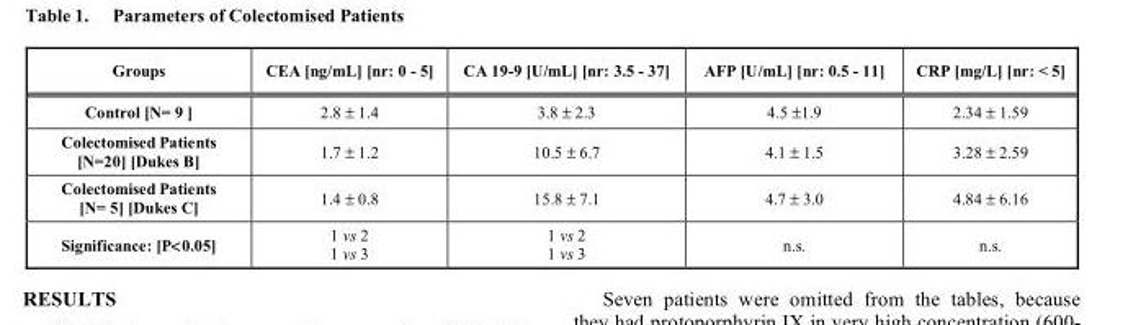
<table><thead><tr><td>Groups</td><td>CEA [ng/mL] [nr: 0 - 5]</td><td>CA 19-9 [U/mL] [nr: 3.5 - 37]</td><td>AFP [U/mL] [nr: 0.5 - 11]</td><td>CRP [mg/L] [nr: &lt; 5]</td></tr></thead><tbody><tr><td>Control [N= 9 ]</td><td>2.8 ± 1.4</td><td>3.8 ± 2.3</td><td>4.5 ±1.9</td><td>2.34 ± 1.59</td></tr><tr><td>Colectomised Patients [N=20] [Dukes B]</td><td>1.7 ± 1.2</td><td>10.5 ± 6.7</td><td>4.1 ± 1.5</td><td>3.28 ± 2.59</td></tr><tr><td>Colectomised Patients [N= 5] [Dukes C]</td><td>1.4 ± 0.8</td><td>15.8 ± 7.1</td><td>4.7 ± 3.0</td><td>4.84 ± 6.16</td></tr><tr><td>Significance: [P&lt;0.05]</td><td>1 vs 2 1 vs 3</td><td>1 vs 2 1 vs 3</td><td>n.s.</td><td>n.s.</td></tr></tbody></table>